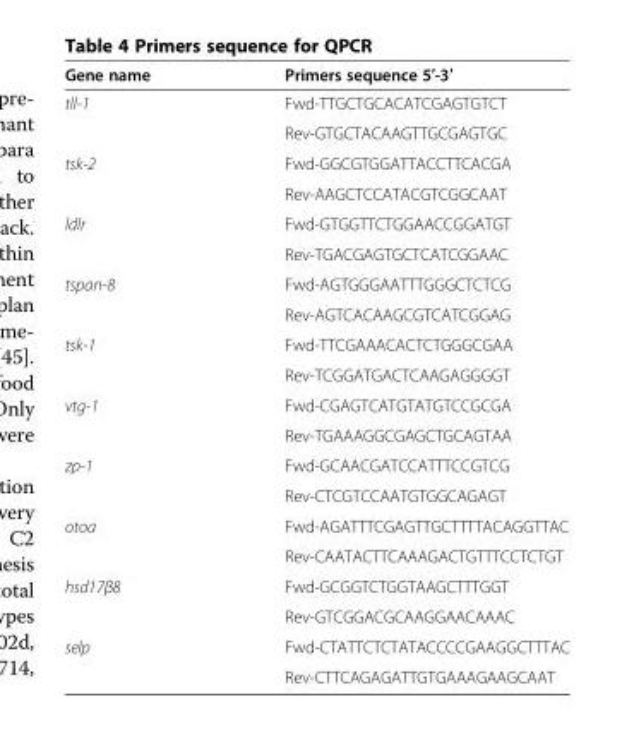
<table><thead><tr><td>Gene name</td><td>Primers sequence 5′-3′</td></tr></thead><tbody><tr><td rowspan="2">tll-1</td><td>Fwd-TTGCTGCACATCGAGTGTCT</td></tr><tr><td>Rev-GTGCTACAAGTTGCGAGTGC</td></tr><tr><td rowspan="2">tsk-2</td><td>Fwd-GGCGTGGATTACCTTCACGA</td></tr><tr><td>Rev-AAGCTCCATACGTCGGCAAT</td></tr><tr><td rowspan="2">ldlr</td><td>Fwd-GTGGTTCTGGAACCGGATGT</td></tr><tr><td>Rev-TGACGAGTGCTCATCGGAAC</td></tr><tr><td rowspan="2">tspan-8</td><td>Fwd-AGTGGGAATTTGGGCTCTCG</td></tr><tr><td>Rev-AGTCACAAGCGTCATCGGAG</td></tr><tr><td rowspan="2">tsk-1</td><td>Fwd-TTCGAAACACTCTGGGCGAA</td></tr><tr><td>Rev-TCGGATGACTCAAGAGGGGT</td></tr><tr><td rowspan="2">vtg-1</td><td>Fwd-CGAGTCATGTATGTCCGCGA</td></tr><tr><td>Rev-TGAAAGGCGAGCTGCAGTAA</td></tr><tr><td rowspan="2">zp-1</td><td>Fwd-GCAACGATCCATTTCCGTCG</td></tr><tr><td>Rev-CTCGTCCAATGTGGCAGAGT</td></tr><tr><td rowspan="2">otoa</td><td>Fwd-AGATTTCGAGTTGCTTTTACAGGTTAC</td></tr><tr><td>Rev-CAATACTTCAAAGACTGTTTCCTCTGT</td></tr><tr><td rowspan="2">hsd17β8</td><td>Fwd-GCGGTCTGGTAAGCTTTGGT</td></tr><tr><td>Rev-GTCGGACGCAAGGAACAAAC</td></tr><tr><td rowspan="2">selp</td><td>Fwd-CTATTCTCTATACCCCGAAGGCTTTAC</td></tr><tr><td>Rev-CTTCAGAGATTGTGAAAGAAGCAAT</td></tr></tbody></table>